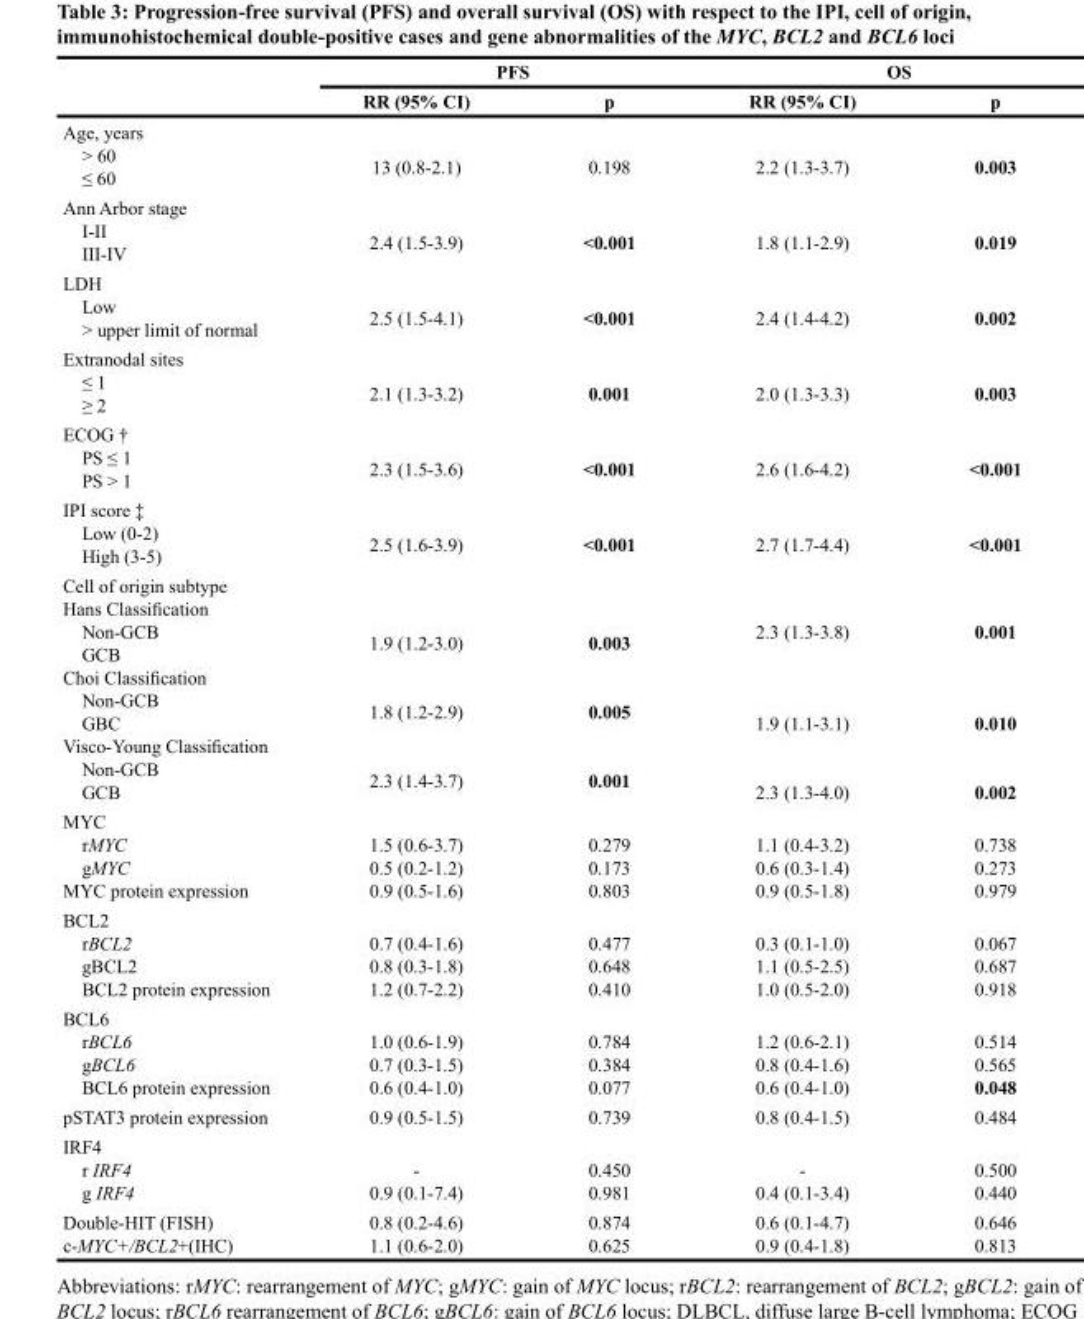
<table><thead><tr><td rowspan="2"></td><td colspan="2">PFS</td><td colspan="2">OS</td></tr><tr><td>RR (95% CI)</td><td>p</td><td>RR (95% CI)</td><td>p</td></tr></thead><tbody><tr><td>Age, years &gt; 60 ≤ 60</td><td>13 (0.8-2.1)</td><td>0.198</td><td>2.2 (1.3-3.7)</td><td>0.003</td></tr><tr><td>Ann Arbor stage I-II III-IV</td><td>2.4 (1.5-3.9)</td><td>&lt;0.001</td><td>1.8 (1.1-2.9)</td><td>0.019</td></tr><tr><td>LDH Low &gt; upper limit of normal</td><td>2.5 (1.5-4.1)</td><td>&lt;0.001</td><td>2.4 (1.4-4.2)</td><td>0.002</td></tr><tr><td>Extranodal sites ≤ 1 ≥ 2</td><td>2.1 (1.3-3.2)</td><td>0.001</td><td>2.0 (1.3-3.3)</td><td>0.003</td></tr><tr><td>ECOG † PS ≤ 1 PS &gt; 1</td><td>2.3 (1.5-3.6)</td><td>&lt;0.001</td><td>2.6 (1.6-4.2)</td><td>&lt;0.001</td></tr><tr><td>IPI score ‡ Low (0-2) High (3-5)</td><td>2.5 (1.6-3.9)</td><td>&lt;0.001</td><td>2.7 (1.7-4.4)</td><td>&lt;0.001</td></tr><tr><td>Cell of origin subtype Hans Classification Non-GCB GCB</td><td>1.9 (1.2-3.0)</td><td>0.003</td><td>2.3 (1.3-3.8)</td><td>0.001</td></tr><tr><td>Choi Classification Non-GCB GBC</td><td>1.8 (1.2-2.9)</td><td>0.005</td><td>1.9 (1.1-3.1)</td><td>0.010</td></tr><tr><td>Visco-Young Classification Non-GCB GCB</td><td>2.3 (1.4-3.7)</td><td>0.001</td><td>2.3 (1.3-4.0)</td><td>0.002</td></tr><tr><td>MYC rMYC gMYC MYC protein expression</td><td>1.5 (0.6-3.7) 0.5 (0.2-1.2) 0.9 (0.5-1.6)</td><td>0.279 0.173 0.803</td><td>1.1 (0.4-3.2) 0.6 (0.3-1.4) 0.9 (0.5-1.8)</td><td>0.738 0.273 0.979</td></tr><tr><td>BCL2 rBCL2 gBCL2 BCL2 protein expression</td><td>0.7 (0.4-1.6) 0.8 (0.3-1.8) 1.2 (0.7-2.2)</td><td>0.477 0.648 0.410</td><td>0.3 (0.1-1.0) 1.1 (0.5-2.5) 1.0 (0.5-2.0)</td><td>0.067 0.687 0.918</td></tr><tr><td>BCL6 rBCL6 gBCL6 BCL6 protein expression</td><td>1.0 (0.6-1.9) 0.7 (0.3-1.5) 0.6 (0.4-1.0)</td><td>0.784 0.384 0.077</td><td>1.2 (0.6-2.1) 0.8 (0.4-1.6) 0.6 (0.4-1.0)</td><td>0.514 0.565 0.048</td></tr><tr><td>pSTAT3 protein expression</td><td>0.9 (0.5-1.5)</td><td>0.739</td><td>0.8 (0.4-1.5)</td><td>0.484</td></tr><tr><td>IRF4 r IRF4 g IRF4</td><td>- 0.9 (0.1-7.4)</td><td>0.450 0.981</td><td>- 0.4 (0.1-3.4)</td><td>0.500 0.440</td></tr><tr><td>Double-HIT (FISH) c-MYC+/BCL2+(IHC)</td><td>0.8 (0.2-4.6) 1.1 (0.6-2.0)</td><td>0.874 0.625</td><td>0.6 (0.1-4.7) 0.9 (0.4-1.8)</td><td>0.646 0.813</td></tr></tbody></table>